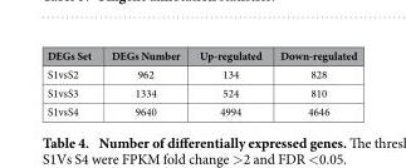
<table><thead><tr><td>DEGs Set</td><td>DEGs Number</td><td>Up-regulated</td><td>Down-regulated</td></tr></thead><tbody><tr><td>S1vsS2</td><td>962</td><td>134</td><td>828</td></tr><tr><td>S1vsS3</td><td>1334</td><td>524</td><td>810</td></tr><tr><td>S1vsS4</td><td>9640</td><td>4994</td><td>4646</td></tr></tbody></table>